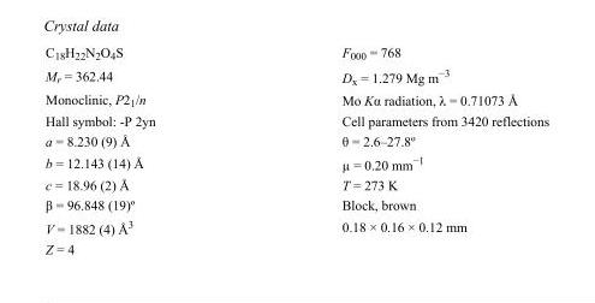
<table><tbody><tr><td>C<sub>18</sub>H<sub>22</sub>N<sub>2</sub>O<sub>4</sub>S</td><td>F000 = 768</td></tr><tr><td>M<sub>r</sub> = 362.44</td><td>D<sub>x</sub> = 1.279 Mg m<sup>−3</sup></td></tr><tr><td>Monoclinic, P2<sub>1</sub>/n</td><td>Mo Kα radiation, λ = 0.71073 Å</td></tr><tr><td>Hall symbol: -P 2yn</td><td>Cell parameters from 3420 reflections</td></tr><tr><td>a = 8.230 (9) Å</td><td>θ = 2.6–27.8º</td></tr><tr><td>b = 12.143 (14) Å</td><td>µ = 0.20 mm<sup>−1</sup></td></tr><tr><td>c = 18.96 (2) Å</td><td>T = 273 K</td></tr><tr><td>β = 96.848 (19)º</td><td>Block, brown</td></tr><tr><td>V = 1882 (4) Å<sup>3</sup></td><td>0.18 × 0.16 × 0.12 mm</td></tr><tr><td>Z = 4</td><td></td></tr></tbody></table>